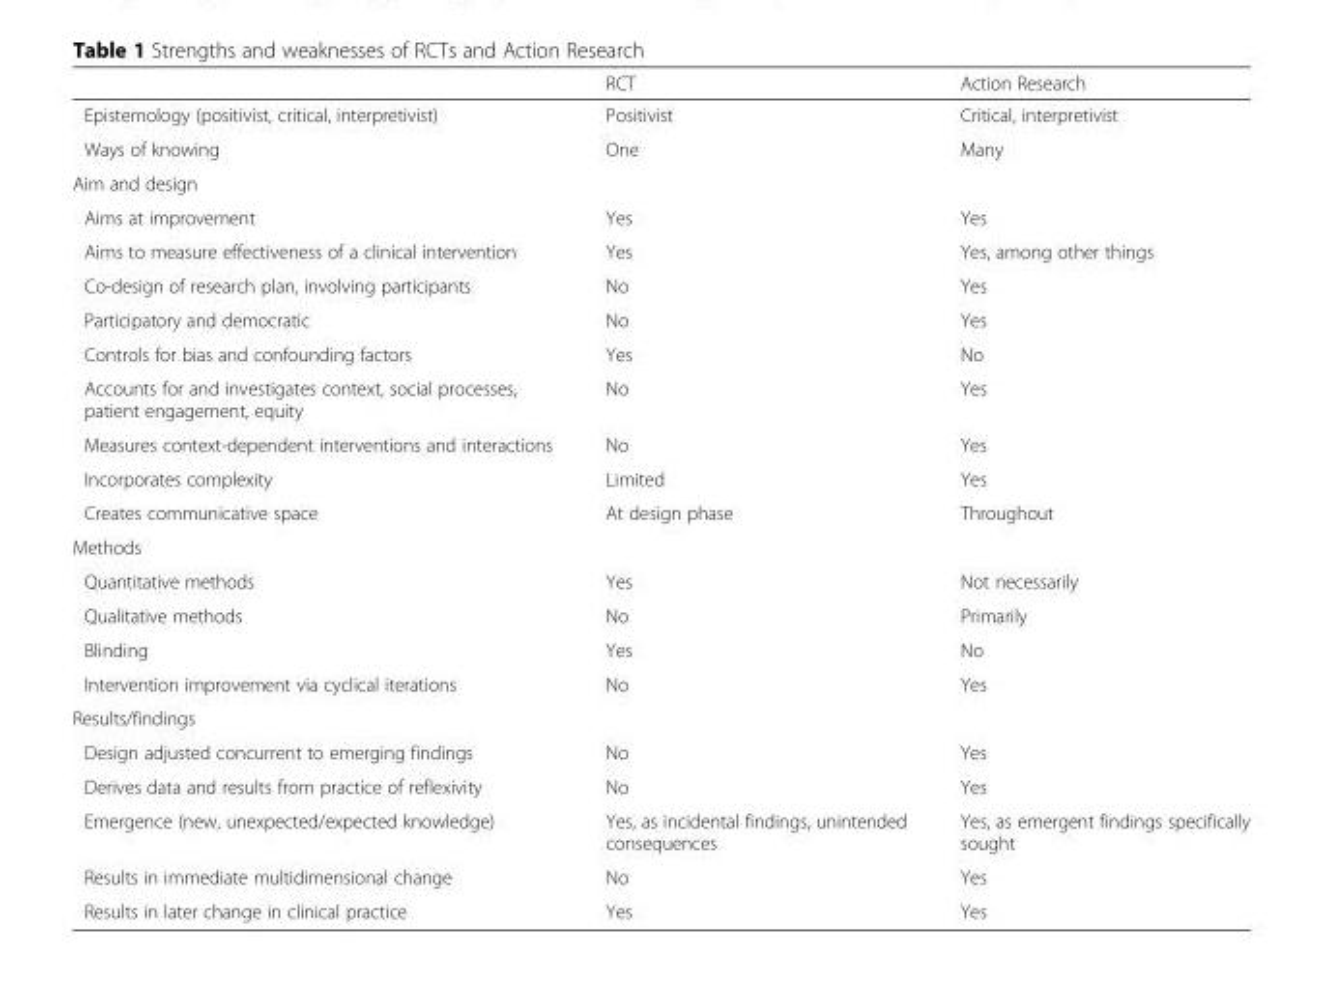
<table><thead><tr><td></td><td>RCT</td><td>Action Research</td></tr></thead><tbody><tr><td>Epistemology (positivist, critical, interpretivist)</td><td>Positivist</td><td>Critical, interpretivist</td></tr><tr><td>Ways of knowing</td><td>One</td><td>Many</td></tr><tr><td colspan="3">Aim and design</td></tr><tr><td>Aims at improvement</td><td>Yes</td><td>Yes</td></tr><tr><td>Aims to measure effectiveness of a clinical intervention</td><td>Yes</td><td>Yes, among other things</td></tr><tr><td>Co-design of research plan, involving participants</td><td>No</td><td>Yes</td></tr><tr><td>Participatory and democratic</td><td>No</td><td>Yes</td></tr><tr><td>Controls for bias and confounding factors</td><td>Yes</td><td>No</td></tr><tr><td>Accounts for and investigates context, social processes, patient engagement, equity</td><td>No</td><td>Yes</td></tr><tr><td>Measures context-dependent interventions and interactions</td><td>No</td><td>Yes</td></tr><tr><td>Incorporates complexity</td><td>Limited</td><td>Yes</td></tr><tr><td>Creates communicative space</td><td>At design phase</td><td>Throughout</td></tr><tr><td colspan="3">Methods</td></tr><tr><td>Quantitative methods</td><td>Yes</td><td>Not necessarily</td></tr><tr><td>Qualitative methods</td><td>No</td><td>Primarily</td></tr><tr><td>Blinding</td><td>Yes</td><td>No</td></tr><tr><td>Intervention improvement via cyclical iterations</td><td>No</td><td>Yes</td></tr><tr><td colspan="3">Results/findings</td></tr><tr><td>Design adjusted concurrent to emerging findings</td><td>No</td><td>Yes</td></tr><tr><td>Derives data and results from practice of reflexivity</td><td>No</td><td>Yes</td></tr><tr><td>Emergence (new, unexpected/expected knowledge)</td><td>Yes, as incidental findings, unintended consequences</td><td>Yes, as emergent findings specifically sought</td></tr><tr><td>Results in immediate multidimensional change</td><td>No</td><td>Yes</td></tr><tr><td>Results in later change in clinical practice</td><td>Yes</td><td>Yes</td></tr></tbody></table>